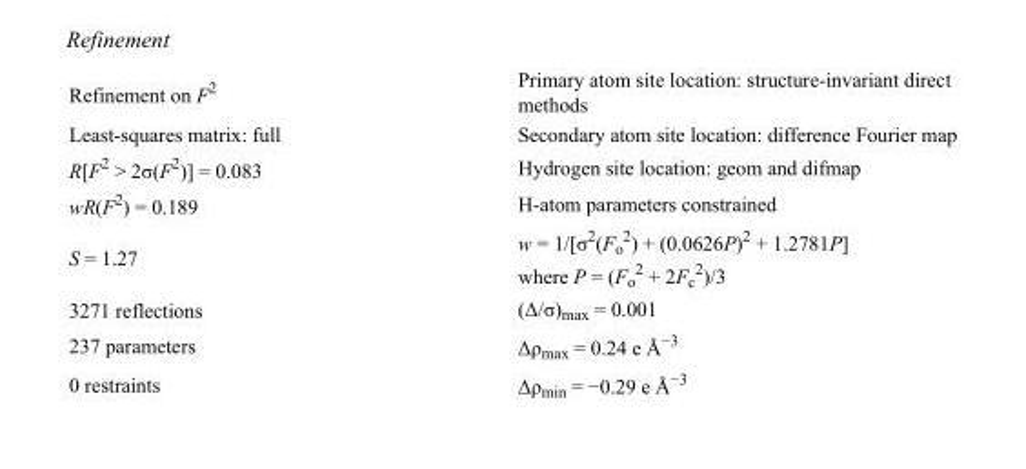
<table><tbody><tr><td>Refinement on F<sup>2</sup></td><td>Primary atom site location: structure-invariant direct methods</td></tr><tr><td>Least-squares matrix: full</td><td>Secondary atom site location: difference Fourier map</td></tr><tr><td>R[F<sup>2</sup> &gt; 2σ(F<sup>2</sup>)] = 0.083</td><td>Hydrogen site location: geom and difmap</td></tr><tr><td>wR(F<sup>2</sup>) = 0.189</td><td>H-atom parameters constrained</td></tr><tr><td>S = 1.27</td><td>w = 1/[σ<sup>2</sup>(F<sub>o</sub> <sup>2</sup>) + (0.0626P)<sup>2</sup> + 1.2781P] where P = (F<sub>o</sub> <sup>2</sup> + 2F<sub>c</sub> <sup>2</sup>)/3</td></tr><tr><td>3271 reflections</td><td>(Δ/σ)<sub>max</sub> = 0.001</td></tr><tr><td>237 parameters</td><td>Δρ<sub>max</sub> = 0.24 e Å<sup>−3</sup></td></tr><tr><td>0 restraints</td><td>Δρ<sub>min</sub> = −0.29 e Å<sup>−3</sup></td></tr></tbody></table>